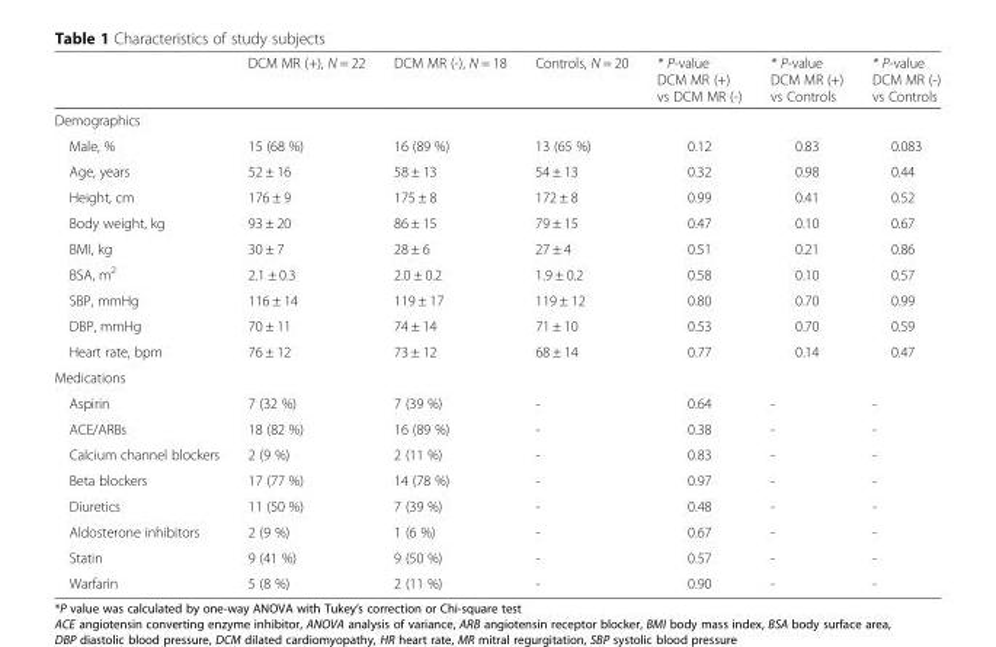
<table><thead><tr><td></td><td>DCM MR (+), N = 22</td><td>DCM MR (-), N = 18</td><td>Controls, N = 20</td><td>* P-value DCM MR (+) vs DCM MR (-)</td><td>* P-value DCM MR (+) vs Controls</td><td>* P-value DCM MR (-) vs Controls</td></tr></thead><tbody><tr><td colspan="7">Demographics</td></tr><tr><td>Male, %</td><td>15 (68 %)</td><td>16 (89 %)</td><td>13 (65 %)</td><td>0.12</td><td>0.83</td><td>0.083</td></tr><tr><td>Age, years</td><td>52 ± 16</td><td>58 ± 13</td><td>54 ± 13</td><td>0.32</td><td>0.98</td><td>0.44</td></tr><tr><td>Height, cm</td><td>176 ± 9</td><td>175 ± 8</td><td>172 ± 8</td><td>0.99</td><td>0.41</td><td>0.52</td></tr><tr><td>Body weight, kg</td><td>93 ± 20</td><td>86 ± 15</td><td>79 ± 15</td><td>0.47</td><td>0.10</td><td>0.67</td></tr><tr><td>BMI, kg</td><td>30 ± 7</td><td>28 ± 6</td><td>27 ± 4</td><td>0.51</td><td>0.21</td><td>0.86</td></tr><tr><td>BSA, m<sup>2</sup></td><td>2.1 ± 0.3</td><td>2.0 ± 0.2</td><td>1.9 ± 0.2</td><td>0.58</td><td>0.10</td><td>0.57</td></tr><tr><td>SBP, mmHg</td><td>116 ± 14</td><td>119 ± 17</td><td>119 ± 12</td><td>0.80</td><td>0.70</td><td>0.99</td></tr><tr><td>DBP, mmHg</td><td>70 ± 11</td><td>74 ± 14</td><td>71 ± 10</td><td>0.53</td><td>0.70</td><td>0.59</td></tr><tr><td>Heart rate, bpm</td><td>76 ± 12</td><td>73 ± 12</td><td>68 ± 14</td><td>0.77</td><td>0.14</td><td>0.47</td></tr><tr><td colspan="7">Medications</td></tr><tr><td>Aspirin</td><td>7 (32 %)</td><td>7 (39 %)</td><td>-</td><td>0.64</td><td>-</td><td>-</td></tr><tr><td>ACE/ARBs</td><td>18 (82 %)</td><td>16 (89 %)</td><td>-</td><td>0.38</td><td>-</td><td>-</td></tr><tr><td>Calcium channel blockers</td><td>2 (9 %)</td><td>2 (11 %)</td><td>-</td><td>0.83</td><td>-</td><td>-</td></tr><tr><td>Beta blockers</td><td>17 (77 %)</td><td>14 (78 %)</td><td>-</td><td>0.97</td><td>-</td><td>-</td></tr><tr><td>Diuretics</td><td>11 (50 %)</td><td>7 (39 %)</td><td>-</td><td>0.48</td><td>-</td><td>-</td></tr><tr><td>Aldosterone inhibitors</td><td>2 (9 %)</td><td>1 (6 %)</td><td>-</td><td>0.67</td><td>-</td><td>-</td></tr><tr><td>Statin</td><td>9 (41 %)</td><td>9 (50 %)</td><td>-</td><td>0.57</td><td>-</td><td>-</td></tr><tr><td>Warfarin</td><td>5 (8 %)</td><td>2 (11 %)</td><td>-</td><td>0.90</td><td>-</td><td>-</td></tr></tbody></table>